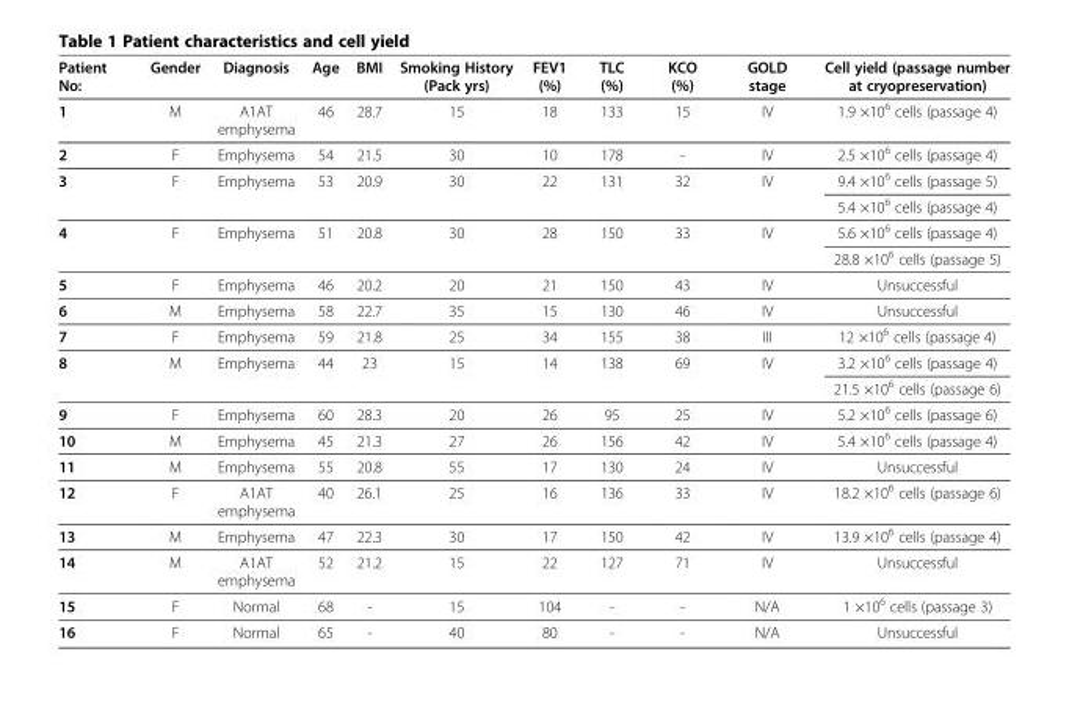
<table><thead><tr><td>Patient No:</td><td>Gender</td><td>Diagnosis</td><td>Age</td><td>BMI</td><td>Smoking History (Pack yrs)</td><td>FEV1 (%)</td><td>TLC (%)</td><td>KCO (%)</td><td>GOLD stage</td><td>Cell yield (passage number at cryopreservation)</td></tr></thead><tbody><tr><td>1</td><td>M</td><td>A1AT emphysema</td><td>46</td><td>28.7</td><td>15</td><td>18</td><td>133</td><td>15</td><td>IV</td><td>1.9 ×10<sup>6</sup> cells (passage 4)</td></tr><tr><td>2</td><td>F</td><td>Emphysema</td><td>54</td><td>21.5</td><td>30</td><td>10</td><td>178</td><td>-</td><td>IV</td><td>2.5 ×10<sup>6</sup> cells (passage 4)</td></tr><tr><td rowspan="2">3</td><td rowspan="2">F</td><td rowspan="2">Emphysema</td><td rowspan="2">53</td><td rowspan="2">20.9</td><td rowspan="2">30</td><td rowspan="2">22</td><td rowspan="2">131</td><td rowspan="2">32</td><td rowspan="2">IV</td><td>9.4 ×10<sup>6</sup> cells (passage 5)</td></tr><tr><td>5.4 ×10<sup>6</sup> cells (passage 4)</td></tr><tr><td rowspan="2">4</td><td rowspan="2">F</td><td rowspan="2">Emphysema</td><td rowspan="2">51</td><td rowspan="2">20.8</td><td rowspan="2">30</td><td rowspan="2">28</td><td rowspan="2">150</td><td rowspan="2">33</td><td rowspan="2">IV</td><td>5.6 ×10<sup>6</sup> cells (passage 4)</td></tr><tr><td>28.8 ×10<sup>6</sup> cells (passage 5)</td></tr><tr><td>5</td><td>F</td><td>Emphysema</td><td>46</td><td>20.2</td><td>20</td><td>21</td><td>150</td><td>43</td><td>IV</td><td>Unsuccessful</td></tr><tr><td>6</td><td>M</td><td>Emphysema</td><td>58</td><td>22.7</td><td>35</td><td>15</td><td>130</td><td>46</td><td>IV</td><td>Unsuccessful</td></tr><tr><td>7</td><td>F</td><td>Emphysema</td><td>59</td><td>21.8</td><td>25</td><td>34</td><td>155</td><td>38</td><td>III</td><td>12 ×10<sup>6</sup> cells (passage 4)</td></tr><tr><td rowspan="2">8</td><td rowspan="2">M</td><td rowspan="2">Emphysema</td><td rowspan="2">44</td><td rowspan="2">23</td><td rowspan="2">15</td><td rowspan="2">14</td><td rowspan="2">138</td><td rowspan="2">69</td><td rowspan="2">IV</td><td>3.2 ×10<sup>6</sup> cells (passage 4)</td></tr><tr><td>21.5 ×10<sup>6</sup> cells (passage 6)</td></tr><tr><td>9</td><td>F</td><td>Emphysema</td><td>60</td><td>28.3</td><td>20</td><td>26</td><td>95</td><td>25</td><td>IV</td><td>5.2 ×10<sup>6</sup> cells (passage 6)</td></tr><tr><td>10</td><td>M</td><td>Emphysema</td><td>45</td><td>21.3</td><td>27</td><td>26</td><td>156</td><td>42</td><td>IV</td><td>5.4 ×10<sup>6</sup> cells (passage 4)</td></tr><tr><td>11</td><td>M</td><td>Emphysema</td><td>55</td><td>20.8</td><td>55</td><td>17</td><td>130</td><td>24</td><td>IV</td><td>Unsuccessful</td></tr><tr><td>12</td><td>F</td><td>A1AT emphysema</td><td>40</td><td>26.1</td><td>25</td><td>16</td><td>136</td><td>33</td><td>IV</td><td>18.2 ×10<sup>6</sup> cells (passage 6)</td></tr><tr><td>13</td><td>M</td><td>Emphysema</td><td>47</td><td>22.3</td><td>30</td><td>17</td><td>150</td><td>42</td><td>IV</td><td>13.9 ×10<sup>6</sup> cells (passage 4)</td></tr><tr><td>14</td><td>M</td><td>A1AT emphysema</td><td>52</td><td>21.2</td><td>15</td><td>22</td><td>127</td><td>71</td><td>IV</td><td>Unsuccessful</td></tr><tr><td>15</td><td>F</td><td>Normal</td><td>68</td><td>-</td><td>15</td><td>104</td><td>-</td><td>-</td><td>N/A</td><td>1 ×10<sup>6</sup> cells (passage 3)</td></tr><tr><td>16</td><td>F</td><td>Normal</td><td>65</td><td>-</td><td>40</td><td>80</td><td>-</td><td>-</td><td>N/A</td><td>Unsuccessful</td></tr></tbody></table>